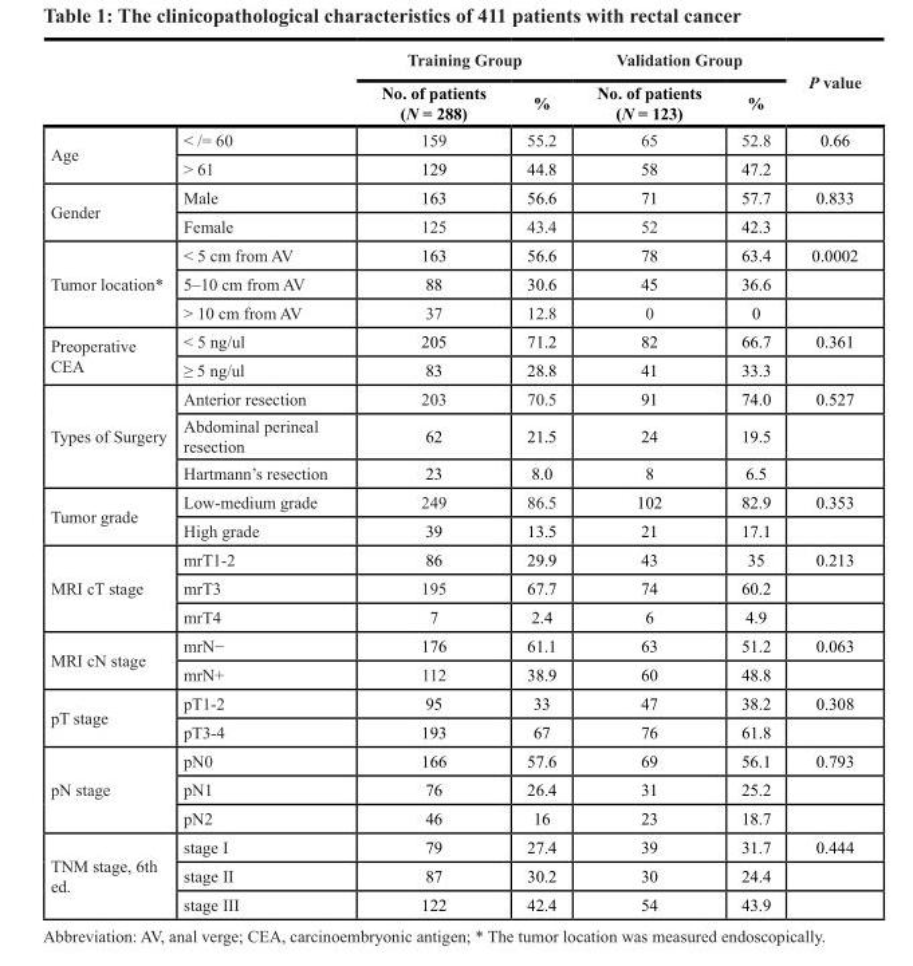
<table><thead><tr><td rowspan="2"></td><td rowspan="2"></td><td colspan="2">Training Group</td><td colspan="2">Validation Group</td><td rowspan="2">P value</td></tr><tr><td>No. of patients (N = 288)</td><td>%</td><td>No. of patients (N = 123)</td><td>%</td></tr></thead><tbody><tr><td rowspan="2">Age</td><td>&lt; /= 60</td><td>159</td><td>55.2</td><td>65</td><td>52.8</td><td>0.66</td></tr><tr><td>&gt; 61</td><td>129</td><td>44.8</td><td>58</td><td>47.2</td><td></td></tr><tr><td rowspan="2">Gender</td><td>Male</td><td>163</td><td>56.6</td><td>71</td><td>57.7</td><td>0.833</td></tr><tr><td>Female</td><td>125</td><td>43.4</td><td>52</td><td>42.3</td><td></td></tr><tr><td rowspan="3">Tumor location*</td><td>&lt; 5 cm from AV</td><td>163</td><td>56.6</td><td>78</td><td>63.4</td><td>0.0002</td></tr><tr><td>5–10 cm from AV</td><td>88</td><td>30.6</td><td>45</td><td>36.6</td><td></td></tr><tr><td>&gt; 10 cm from AV</td><td>37</td><td>12.8</td><td>0</td><td>0</td><td></td></tr><tr><td rowspan="2">Preoperative CEA</td><td>&lt; 5 ng/ul</td><td>205</td><td>71.2</td><td>82</td><td>66.7</td><td>0.361</td></tr><tr><td>≥ 5 ng/ul</td><td>83</td><td>28.8</td><td>41</td><td>33.3</td><td></td></tr><tr><td rowspan="3">Types of Surgery</td><td>Anterior resection</td><td>203</td><td>70.5</td><td>91</td><td>74.0</td><td>0.527</td></tr><tr><td>Abdominal perineal resection</td><td>62</td><td>21.5</td><td>24</td><td>19.5</td><td></td></tr><tr><td>Hartmann’s resection</td><td>23</td><td>8.0</td><td>8</td><td>6.5</td><td></td></tr><tr><td rowspan="2">Tumor grade</td><td>Low-medium grade</td><td>249</td><td>86.5</td><td>102</td><td>82.9</td><td>0.353</td></tr><tr><td>High grade</td><td>39</td><td>13.5</td><td>21</td><td>17.1</td><td></td></tr><tr><td rowspan="3">MRI cT stage</td><td>mrT1-2</td><td>86</td><td>29.9</td><td>43</td><td>35</td><td>0.213</td></tr><tr><td>mrT3</td><td>195</td><td>67.7</td><td>74</td><td>60.2</td><td></td></tr><tr><td>mrT4</td><td>7</td><td>2.4</td><td>6</td><td>4.9</td><td></td></tr><tr><td rowspan="2">MRI cN stage</td><td>mrN−</td><td>176</td><td>61.1</td><td>63</td><td>51.2</td><td>0.063</td></tr><tr><td>mrN+</td><td>112</td><td>38.9</td><td>60</td><td>48.8</td><td></td></tr><tr><td rowspan="2">pT stage</td><td>pT1-2</td><td>95</td><td>33</td><td>47</td><td>38.2</td><td>0.308</td></tr><tr><td>pT3-4</td><td>193</td><td>67</td><td>76</td><td>61.8</td><td></td></tr><tr><td rowspan="3">pN stage</td><td>pN0</td><td>166</td><td>57.6</td><td>69</td><td>56.1</td><td>0.793</td></tr><tr><td>pN1</td><td>76</td><td>26.4</td><td>31</td><td>25.2</td><td></td></tr><tr><td>pN2</td><td>46</td><td>16</td><td>23</td><td>18.7</td><td></td></tr><tr><td rowspan="3">TNM stage, 6th ed.</td><td>stage I</td><td>79</td><td>27.4</td><td>39</td><td>31.7</td><td>0.444</td></tr><tr><td>stage II</td><td>87</td><td>30.2</td><td>30</td><td>24.4</td><td></td></tr><tr><td>stage III</td><td>122</td><td>42.4</td><td>54</td><td>43.9</td><td></td></tr></tbody></table>